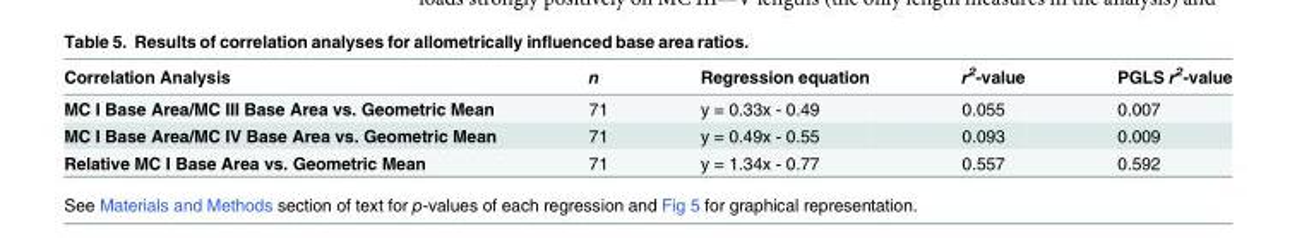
<table><thead><tr><td>Correlation Analysis</td><td>n</td><td>Regression equation</td><td>r<sup>2</sup>-value</td><td>PGLS r<sup>2</sup>-value</td></tr></thead><tbody><tr><td>MC I Base Area/MC III Base Area vs. Geometric Mean</td><td>71</td><td>y = 0.33x - 0.49</td><td>0.055</td><td>0.007</td></tr><tr><td>MC I Base Area/MC IV Base Area vs. Geometric Mean</td><td>71</td><td>y = 0.49x - 0.55</td><td>0.093</td><td>0.009</td></tr><tr><td>Relative MC I Base Area vs. Geometric Mean</td><td>71</td><td>y = 1.34x - 0.77</td><td>0.557</td><td>0.592</td></tr></tbody></table>